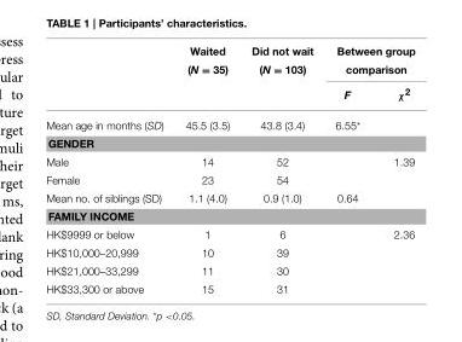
<table><thead><tr><td rowspan="2"></td><td rowspan="2">Waited (N = 35)</td><td rowspan="2">Did not wait (N = 103)</td><td colspan="2">Between group comparison</td></tr><tr><td>F</td><td>χ<sup>2</sup></td></tr></thead><tbody><tr><td>Mean age in months (SD)</td><td>45.5 (3.5)</td><td>43.8 (3.4)</td><td>6.55*</td><td></td></tr><tr><td colspan="5">GENDER</td></tr><tr><td>Male</td><td>14</td><td>52</td><td></td><td>1.39</td></tr><tr><td>Female</td><td>23</td><td>54</td><td></td><td></td></tr><tr><td>Mean no. of siblings (SD)</td><td>1.1 (4.0)</td><td>0.9 (1.0)</td><td>0.64</td><td></td></tr><tr><td colspan="5">FAMILY INCOME</td></tr><tr><td>HK$9999 or below</td><td>1</td><td>6</td><td></td><td>2.36</td></tr><tr><td>HK$10,000–20,999</td><td>10</td><td>39</td><td></td><td></td></tr><tr><td>HK$21,000–33,299</td><td>11</td><td>30</td><td></td><td></td></tr><tr><td>HK$33,300 or above</td><td>15</td><td>31</td><td></td><td></td></tr></tbody></table>